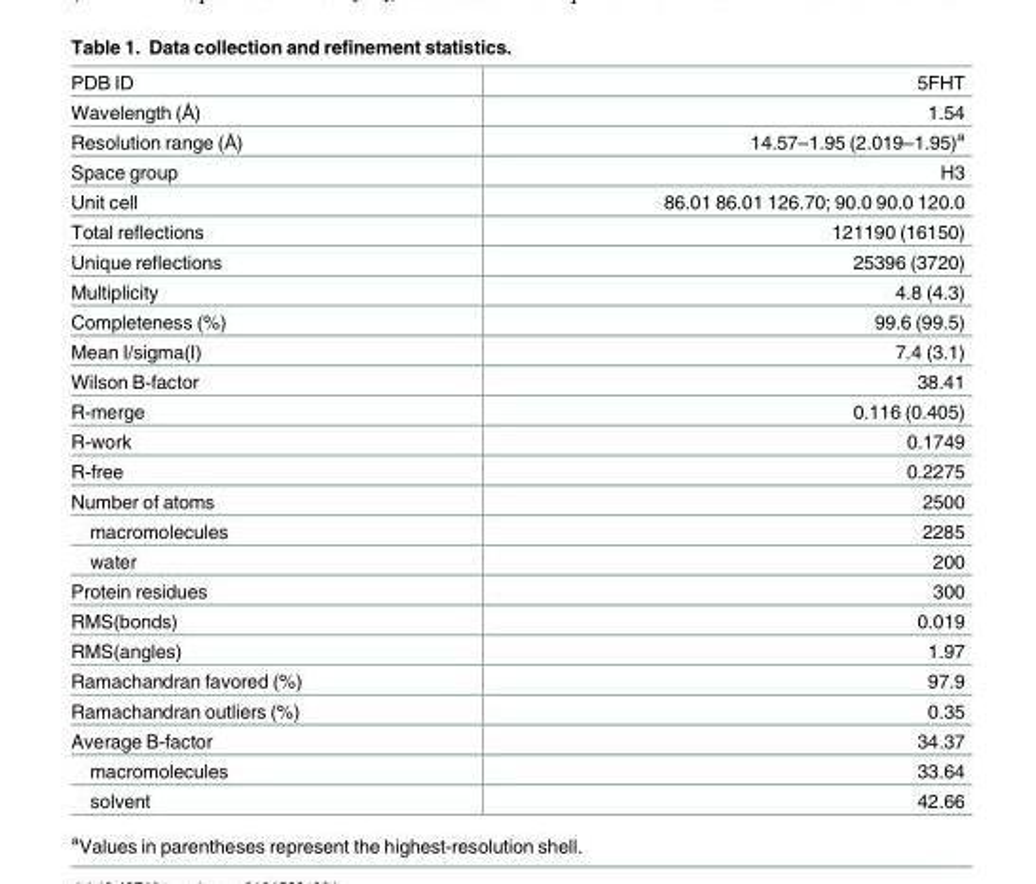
<table><tbody><tr><td>PDB ID</td><td>5FHT</td></tr><tr><td>Wavelength (Å)</td><td>1.54</td></tr><tr><td>Resolution range (Å)</td><td>14.57–1.95 (2.019–1.95)<sup>a</sup></td></tr><tr><td>Space group</td><td>H3</td></tr><tr><td>Unit cell</td><td>86.01 86.01 126.70; 90.0 90.0 120.0</td></tr><tr><td>Total reflections</td><td>121190 (16150)</td></tr><tr><td>Unique reflections</td><td>25396 (3720)</td></tr><tr><td>Multiplicity</td><td>4.8 (4.3)</td></tr><tr><td>Completeness (%)</td><td>99.6 (99.5)</td></tr><tr><td>Mean I/sigma(I)</td><td>7.4 (3.1)</td></tr><tr><td>Wilson B-factor</td><td>38.41</td></tr><tr><td>R-merge</td><td>0.116 (0.405)</td></tr><tr><td>R-work</td><td>0.1749</td></tr><tr><td>R-free</td><td>0.2275</td></tr><tr><td>Number of atoms</td><td>2500</td></tr><tr><td>macromolecules</td><td>2285</td></tr><tr><td>water</td><td>200</td></tr><tr><td>Protein residues</td><td>300</td></tr><tr><td>RMS(bonds)</td><td>0.019</td></tr><tr><td>RMS(angles)</td><td>1.97</td></tr><tr><td>Ramachandran favored (%)</td><td>97.9</td></tr><tr><td>Ramachandran outliers (%)</td><td>0.35</td></tr><tr><td>Average B-factor</td><td>34.37</td></tr><tr><td>macromolecules</td><td>33.64</td></tr><tr><td>solvent</td><td>42.66</td></tr></tbody></table>